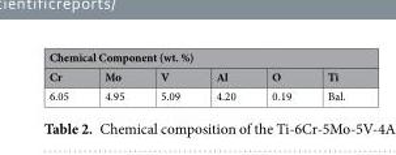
<table><thead><tr><td colspan="6">Chemical Component (wt. %)</td></tr><tr><td>Cr</td><td>Mo</td><td>V</td><td>Al</td><td>O</td><td>Ti</td></tr></thead><tbody><tr><td>6.05</td><td>4.95</td><td>5.09</td><td>4.20</td><td>0.19</td><td>Bal.</td></tr></tbody></table>